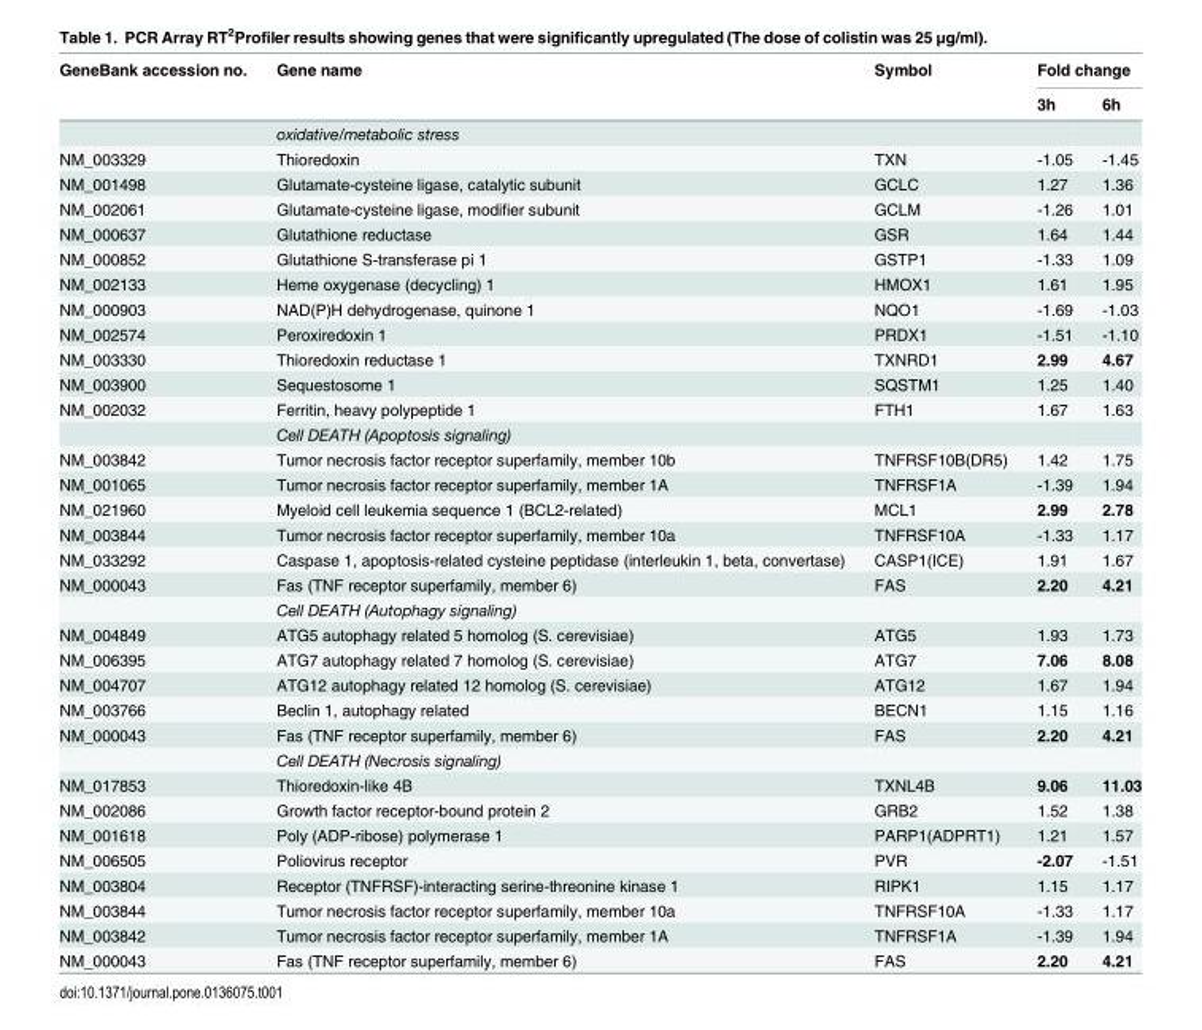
<table><thead><tr><td rowspan="2">GeneBank accession no.</td><td rowspan="2">Gene name</td><td rowspan="2">Symbol</td><td colspan="2">Fold change</td></tr><tr><td>3h</td><td>6h</td></tr></thead><tbody><tr><td></td><td>oxidative/metabolic stress</td><td></td><td></td><td></td></tr><tr><td>NM_003329</td><td>Thioredoxin</td><td>TXN</td><td>-1.05</td><td>-1.45</td></tr><tr><td>NM_001498</td><td>Glutamate-cysteine ligase, catalytic subunit</td><td>GCLC</td><td>1.27</td><td>1.36</td></tr><tr><td>NM_002061</td><td>Glutamate-cysteine ligase, modifier subunit</td><td>GCLM</td><td>-1.26</td><td>1.01</td></tr><tr><td>NM_000637</td><td>Glutathione reductase</td><td>GSR</td><td>1.64</td><td>1.44</td></tr><tr><td>NM_000852</td><td>Glutathione S-transferase pi 1</td><td>GSTP1</td><td>-1.33</td><td>1.09</td></tr><tr><td>NM_002133</td><td>Heme oxygenase (decycling) 1</td><td>HMOX1</td><td>1.61</td><td>1.95</td></tr><tr><td>NM_000903</td><td>NAD(P)H dehydrogenase, quinone 1</td><td>NQO1</td><td>-1.69</td><td>-1.03</td></tr><tr><td>NM_002574</td><td>Peroxiredoxin 1</td><td>PRDX1</td><td>-1.51</td><td>-1.10</td></tr><tr><td>NM_003330</td><td>Thioredoxin reductase 1</td><td>TXNRD1</td><td>2.99</td><td>4.67</td></tr><tr><td>NM_003900</td><td>Sequestosome 1</td><td>SQSTM1</td><td>1.25</td><td>1.40</td></tr><tr><td rowspan="2">NM_002032</td><td>Ferritin, heavy polypeptide 1</td><td>FTH1</td><td>1.67</td><td>1.63</td></tr><tr><td>Cell DEATH (Apoptosis signaling)</td><td></td><td></td><td></td></tr><tr><td>NM_003842</td><td>Tumor necrosis factor receptor superfamily, member 10b</td><td>TNFRSF10B(DR5)</td><td>1.42</td><td>1.75</td></tr><tr><td>NM_001065</td><td>Tumor necrosis factor receptor superfamily, member 1A</td><td>TNFRSF1A</td><td>-1.39</td><td>1.94</td></tr><tr><td>NM_021960</td><td>Myeloid cell leukemia sequence 1 (BCL2-related)</td><td>MCL1</td><td>2.99</td><td>2.78</td></tr><tr><td>NM_003844</td><td>Tumor necrosis factor receptor superfamily, member 10a</td><td>TNFRSF10A</td><td>-1.33</td><td>1.17</td></tr><tr><td>NM_033292</td><td>Caspase 1, apoptosis-related cysteine peptidase (interleukin 1, beta, convertase)</td><td>CASP1(ICE)</td><td>1.91</td><td>1.67</td></tr><tr><td rowspan="2">NM_000043</td><td>Fas (TNF receptor superfamily, member 6)</td><td>FAS</td><td>2.20</td><td>4.21</td></tr><tr><td>Cell DEATH (Autophagy signaling)</td><td></td><td></td><td></td></tr><tr><td>NM_004849</td><td>ATG5 autophagy related 5 homolog (S. cerevisiae)</td><td>ATG5</td><td>1.93</td><td>1.73</td></tr><tr><td>NM_006395</td><td>ATG7 autophagy related 7 homolog (S. cerevisiae)</td><td>ATG7</td><td>7.06</td><td>8.08</td></tr><tr><td>NM_004707</td><td>ATG12 autophagy related 12 homolog (S. cerevisiae)</td><td>ATG12</td><td>1.67</td><td>1.94</td></tr><tr><td>NM_003766</td><td>Beclin 1, autophagy related</td><td>BECN1</td><td>1.15</td><td>1.16</td></tr><tr><td rowspan="2">NM_000043</td><td>Fas (TNF receptor superfamily, member 6)</td><td>FAS</td><td>2.20</td><td>4.21</td></tr><tr><td>Cell DEATH (Necrosis signaling)</td><td></td><td></td><td></td></tr><tr><td>NM_017853</td><td>Thioredoxin-like 4B</td><td>TXNL4B</td><td>9.06</td><td>11.03</td></tr><tr><td>NM_002086</td><td>Growth factor receptor-bound protein 2</td><td>GRB2</td><td>1.52</td><td>1.38</td></tr><tr><td>NM_001618</td><td>Poly (ADP-ribose) polymerase 1</td><td>PARP1(ADPRT1)</td><td>1.21</td><td>1.57</td></tr><tr><td>NM_006505</td><td>Poliovirus receptor</td><td>PVR</td><td>-2.07</td><td>-1.51</td></tr><tr><td>NM_003804</td><td>Receptor (TNFRSF)-interacting serine-threonine kinase 1</td><td>RIPK1</td><td>1.15</td><td>1.17</td></tr><tr><td>NM_003844</td><td>Tumor necrosis factor receptor superfamily, member 10a</td><td>TNFRSF10A</td><td>-1.33</td><td>1.17</td></tr><tr><td>NM_003842</td><td>Tumor necrosis factor receptor superfamily, member 1A</td><td>TNFRSF1A</td><td>-1.39</td><td>1.94</td></tr><tr><td>NM_000043</td><td>Fas (TNF receptor superfamily, member 6)</td><td>FAS</td><td>2.20</td><td>4.21</td></tr></tbody></table>